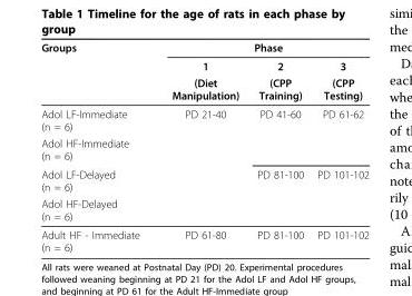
<table><thead><tr><td rowspan="3">Groups</td><td colspan="3">Phase</td></tr><tr><td rowspan="2">1 (Diet Manipulation)</td><td rowspan="2">2 (CPP Training)</td><td rowspan="2">3 (CPP Testing)</td></tr><tr></tr></thead><tbody><tr><td>Adol LF-Immediate (n = 6)</td><td>PD 21-40</td><td>PD 41-60</td><td>PD 61-62</td></tr><tr><td colspan="4">Adol HF-Immediate (n = 6)</td></tr><tr><td>Adol LF-Delayed (n = 6)</td><td></td><td>PD 81-100</td><td>PD 101-102</td></tr><tr><td colspan="4">Adol HF-Delayed (n = 6)</td></tr><tr><td>Adult HF - Immediate (n = 6)</td><td>PD 61-80</td><td>PD 81-100</td><td>PD 101-102</td></tr></tbody></table>